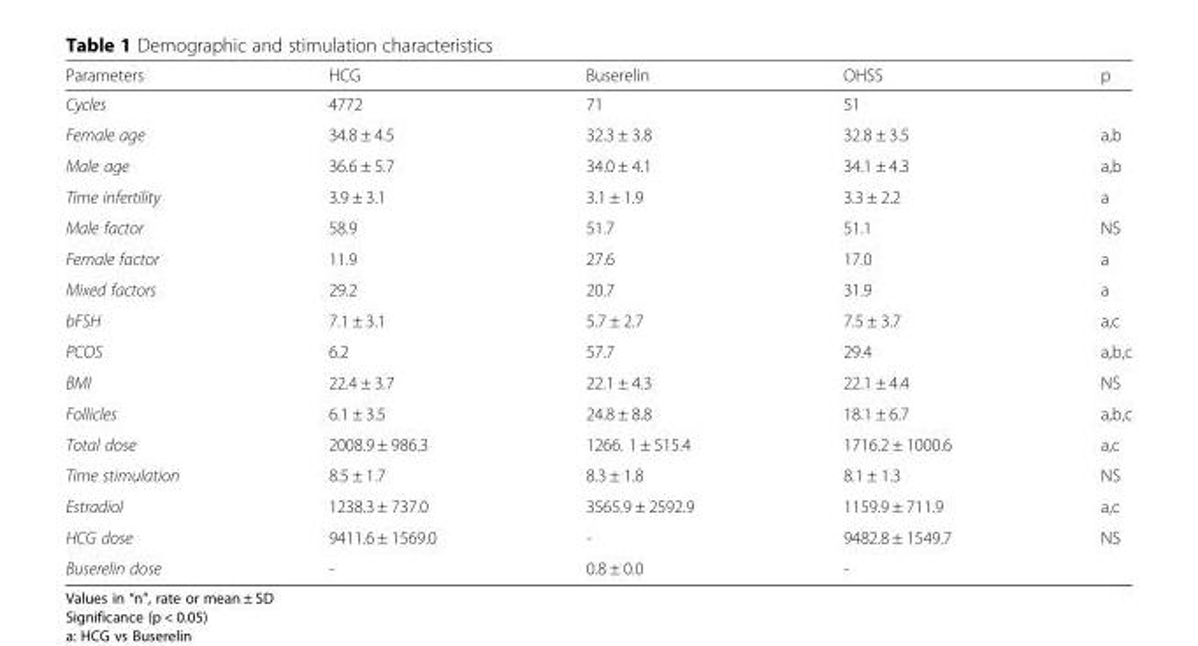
<table><thead><tr><td>Parameters</td><td>HCG</td><td>Buserelin</td><td>OHSS</td><td>p</td></tr></thead><tbody><tr><td>Cycles</td><td>4772</td><td>71</td><td>51</td><td></td></tr><tr><td>Female age</td><td>34.8 ± 4.5</td><td>32.3 ± 3.8</td><td>32.8 ± 3.5</td><td>a,b</td></tr><tr><td>Male age</td><td>36.6 ± 5.7</td><td>34.0 ± 4.1</td><td>34.1 ± 4.3</td><td>a,b</td></tr><tr><td>Time infertility</td><td>3.9 ± 3.1</td><td>3.1 ± 1.9</td><td>3.3 ± 2.2</td><td>a</td></tr><tr><td>Male factor</td><td>58.9</td><td>51.7</td><td>51.1</td><td>NS</td></tr><tr><td>Female factor</td><td>11.9</td><td>27.6</td><td>17.0</td><td>a</td></tr><tr><td>Mixed factors</td><td>29.2</td><td>20.7</td><td>31.9</td><td>a</td></tr><tr><td>bFSH</td><td>7.1 ± 3.1</td><td>5.7 ± 2.7</td><td>7.5 ± 3.7</td><td>a,c</td></tr><tr><td>PCOS</td><td>6.2</td><td>57.7</td><td>29.4</td><td>a,b,c</td></tr><tr><td>BMI</td><td>22.4 ± 3.7</td><td>22.1 ± 4.3</td><td>22.1 ± 4.4</td><td>NS</td></tr><tr><td>Follicles</td><td>6.1 ± 3.5</td><td>24.8 ± 8.8</td><td>18.1 ± 6.7</td><td>a,b,c</td></tr><tr><td>Total dose</td><td>2008.9 ± 986.3</td><td>1266. 1 ± 515.4</td><td>1716.2 ± 1000.6</td><td>a,c</td></tr><tr><td>Time stimulation</td><td>8.5 ± 1.7</td><td>8.3 ± 1.8</td><td>8.1 ± 1.3</td><td>NS</td></tr><tr><td>Estradiol</td><td>1238.3 ± 737.0</td><td>3565.9 ± 2592.9</td><td>1159.9 ± 711.9</td><td>a,c</td></tr><tr><td>HCG dose</td><td>9411.6 ± 1569.0</td><td>-</td><td>9482.8 ± 1549.7</td><td>NS</td></tr><tr><td>Buserelin dose</td><td>-</td><td>0.8 ± 0.0</td><td>-</td><td></td></tr></tbody></table>